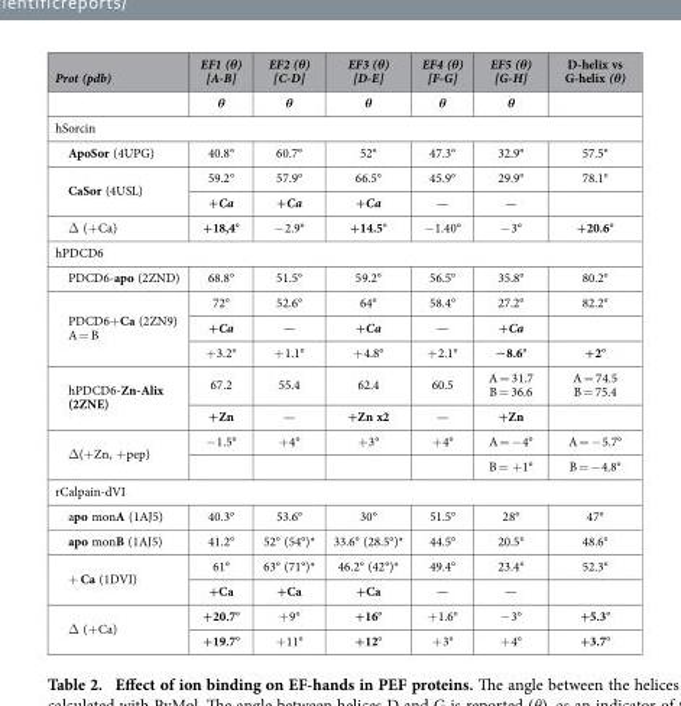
<table><thead><tr><td>Prot (pdb)</td><td>EF1 (θ) [A-B]</td><td>EF2 (θ) [C-D]</td><td>EF3 (θ) [D-E]</td><td>EF4 (θ) [F-G]</td><td>EF5 (θ) [G-H]</td><td>D-helix vs G-helix (θ)</td></tr></thead><tbody><tr><td></td><td>θ</td><td>θ</td><td>θ</td><td>θ</td><td>θ</td><td></td></tr><tr><td colspan="7">hSorcin</td></tr><tr><td>ApoSor (4UPG)</td><td>40.8°</td><td>60.7°</td><td>52°</td><td>47.3°</td><td>32.9°</td><td>57.5°</td></tr><tr><td rowspan="2">CaSor (4USL)</td><td>59.2°</td><td>57.9°</td><td>66.5°</td><td>45.9°</td><td>29.9°</td><td>78.1°</td></tr><tr><td>+Ca</td><td>+Ca</td><td>+Ca</td><td>—</td><td>—</td><td></td></tr><tr><td>Δ (+ Ca)</td><td>+18,4°</td><td>− 2.9°</td><td>+14.5°</td><td>− 1.40°</td><td>− 3°</td><td>+20.6°</td></tr><tr><td colspan="7">hPDCD6</td></tr><tr><td>PDCD6-apo (2ZND)</td><td>68.8°</td><td>51.5°</td><td>59.2°</td><td>56.5°</td><td>35.8°</td><td>80.2°</td></tr><tr><td rowspan="3">PDCD6+ Ca (2ZN9) A = B</td><td>72°</td><td>52.6°</td><td>64°</td><td>58.4°</td><td>27.2°</td><td>82.2°</td></tr><tr><td>+Ca</td><td>—</td><td>+Ca</td><td>—</td><td>+Ca</td><td></td></tr><tr><td>+ 3.2°</td><td>+ 1.1°</td><td>+ 4.8°</td><td>+ 2.1°</td><td>−8.6°</td><td>+2°</td></tr><tr><td rowspan="2">hPDCD6-Zn-Alix (2ZNE)</td><td>67.2</td><td>55.4</td><td>62.4</td><td>60.5</td><td>A = 31.7 B = 36.6</td><td>A = 74.5 B = 75.4</td></tr><tr><td>+Zn</td><td>—</td><td>+Zn x2</td><td>—</td><td>+Zn</td><td></td></tr><tr><td rowspan="2">Δ(+ Zn, + pep)</td><td>− 1.5°</td><td>+ 4°</td><td>+ 3°</td><td>+ 4°</td><td>A = − 4°</td><td>A = − 5.7°</td></tr><tr><td></td><td></td><td></td><td></td><td>B = +1°</td><td>B = − 4.8°</td></tr><tr><td colspan="7">rCalpain-dVI</td></tr><tr><td>apo monA (1AJ5)</td><td>40.3°</td><td>53.6°</td><td>30°</td><td>51.5°</td><td>28°</td><td>47°</td></tr><tr><td>apo monB (1AJ5)</td><td>41.2°</td><td>52° (54°)*</td><td>33.6° (28.5°)*</td><td>44.5°</td><td>20.5°</td><td>48.6°</td></tr><tr><td rowspan="2">+ Ca (1DVI)</td><td>61°</td><td>63° (71°)*</td><td>46.2° (42°)*</td><td>49.4°</td><td>23.4°</td><td>52.3°</td></tr><tr><td>+Ca</td><td>+Ca</td><td>+Ca</td><td>—</td><td>—</td><td></td></tr><tr><td rowspan="2">Δ (+ Ca)</td><td>+20.7°</td><td>+ 9°</td><td>+16°</td><td>+ 1.6°</td><td>− 3°</td><td>+5.3°</td></tr><tr><td>+19.7°</td><td>+ 11°</td><td>+12°</td><td>+ 3°</td><td>+ 4°</td><td>+3.7°</td></tr></tbody></table>